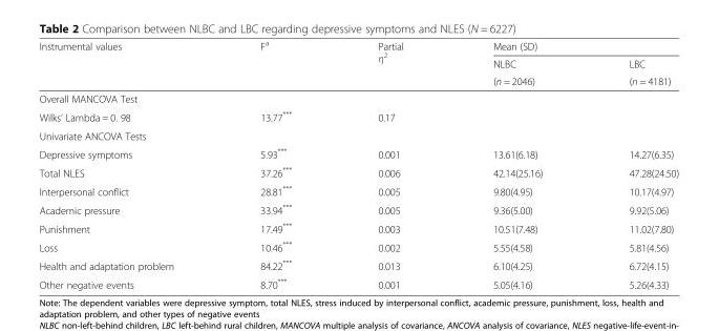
<table><thead><tr><td rowspan="3">Instrumental values</td><td rowspan="3">F<sup>a</sup></td><td rowspan="3">Partial η<sup>2</sup></td><td colspan="2">Mean (SD)</td></tr><tr><td rowspan="2">NLBC (n = 2046)</td><td rowspan="2">LBC (n = 4181)</td></tr><tr></tr></thead><tbody><tr><td colspan="5">Overall MANCOVA Test</td></tr><tr><td>Wilks’ Lambda = 0. 98</td><td>13.77***</td><td>0.17</td><td></td><td></td></tr><tr><td colspan="5">Univariate ANCOVA Tests</td></tr><tr><td>Depressive symptoms</td><td>5.93***</td><td>0.001</td><td>13.61(6.18)</td><td>14.27(6.35)</td></tr><tr><td>Total NLES</td><td>37.26***</td><td>0.006</td><td>42.14(25.16)</td><td>47.28(24.50)</td></tr><tr><td>Interpersonal conflict</td><td>28.81***</td><td>0.005</td><td>9.80(4.95)</td><td>10.17(4.97)</td></tr><tr><td>Academic pressure</td><td>33.94***</td><td>0.005</td><td>9.36(5.00)</td><td>9.92(5.06)</td></tr><tr><td>Punishment</td><td>17.49***</td><td>0.003</td><td>10.51(7.48)</td><td>11.02(7.80)</td></tr><tr><td>Loss</td><td>10.46***</td><td>0.002</td><td>5.55(4.58)</td><td>5.81(4.56)</td></tr><tr><td>Health and adaptation problem</td><td>84.22***</td><td>0.013</td><td>6.10(4.25)</td><td>6.72(4.15)</td></tr><tr><td>Other negative events</td><td>8.70***</td><td>0.001</td><td>5.05(4.16)</td><td>5.26(4.33)</td></tr></tbody></table>